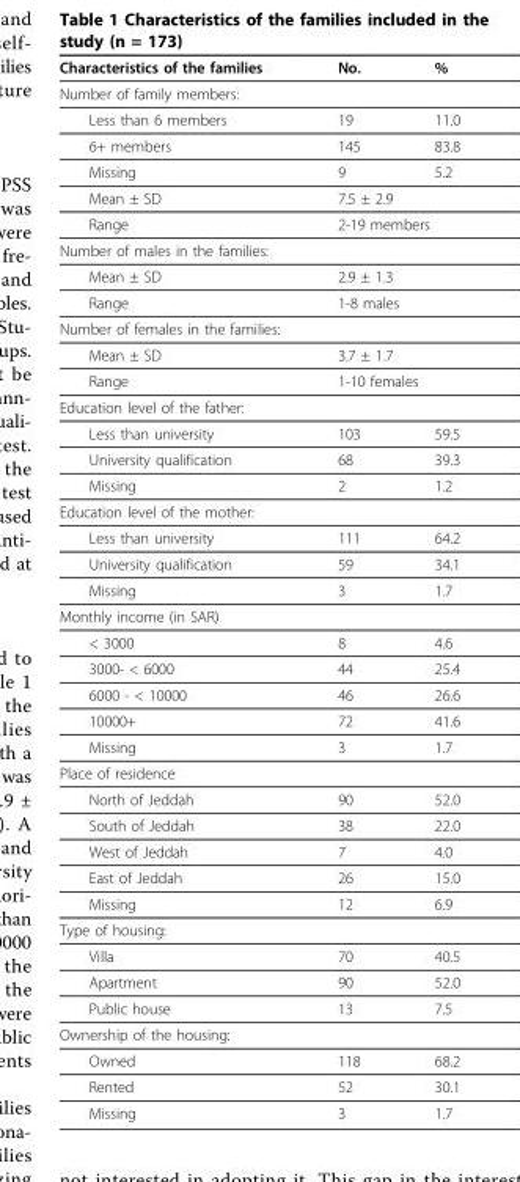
<table><thead><tr><td>Characteristics of the families</td><td>No.</td><td>%</td></tr></thead><tbody><tr><td colspan="3">Number of family members:</td></tr><tr><td>Less than 6 members</td><td>19</td><td>11.0</td></tr><tr><td>6+ members</td><td>145</td><td>83.8</td></tr><tr><td>Missing</td><td>9</td><td>5.2</td></tr><tr><td>Mean ± SD</td><td colspan="2">7.5 ± 2.9</td></tr><tr><td>Range</td><td colspan="2">2-19 members</td></tr><tr><td colspan="3">Number of males in the families:</td></tr><tr><td>Mean ± SD</td><td colspan="2">2.9 ± 1.3</td></tr><tr><td>Range</td><td colspan="2">1-8 males</td></tr><tr><td colspan="3">Number of females in the families:</td></tr><tr><td>Mean ± SD</td><td colspan="2">3.7 ± 1.7</td></tr><tr><td>Range</td><td colspan="2">1-10 females</td></tr><tr><td colspan="3">Education level of the father:</td></tr><tr><td>Less than university</td><td>103</td><td>59.5</td></tr><tr><td>University qualification</td><td>68</td><td>39.3</td></tr><tr><td>Missing</td><td>2</td><td>1.2</td></tr><tr><td colspan="3">Education level of the mother:</td></tr><tr><td>Less than university</td><td>111</td><td>64.2</td></tr><tr><td>University qualification</td><td>59</td><td>34.1</td></tr><tr><td>Missing</td><td>3</td><td>1.7</td></tr><tr><td colspan="3">Monthly income (in SAR)</td></tr><tr><td>&lt; 3000</td><td>8</td><td>4.6</td></tr><tr><td>3000- &lt; 6000</td><td>44</td><td>25.4</td></tr><tr><td>6000 - &lt; 10000</td><td>46</td><td>26.6</td></tr><tr><td>10000+</td><td>72</td><td>41.6</td></tr><tr><td>Missing</td><td>3</td><td>1.7</td></tr><tr><td colspan="3">Place of residence</td></tr><tr><td>North of Jeddah</td><td>90</td><td>52.0</td></tr><tr><td>South of Jeddah</td><td>38</td><td>22.0</td></tr><tr><td>West of Jeddah</td><td>7</td><td>4.0</td></tr><tr><td>East of Jeddah</td><td>26</td><td>15.0</td></tr><tr><td>Missing</td><td>12</td><td>6.9</td></tr><tr><td colspan="3">Type of housing:</td></tr><tr><td>Villa</td><td>70</td><td>40.5</td></tr><tr><td>Apartment</td><td>90</td><td>52.0</td></tr><tr><td>Public house</td><td>13</td><td>7.5</td></tr><tr><td colspan="3">Ownership of the housing:</td></tr><tr><td>Owned</td><td>118</td><td>68.2</td></tr><tr><td>Rented</td><td>52</td><td>30.1</td></tr><tr><td>Missing</td><td>3</td><td>1.7</td></tr></tbody></table>